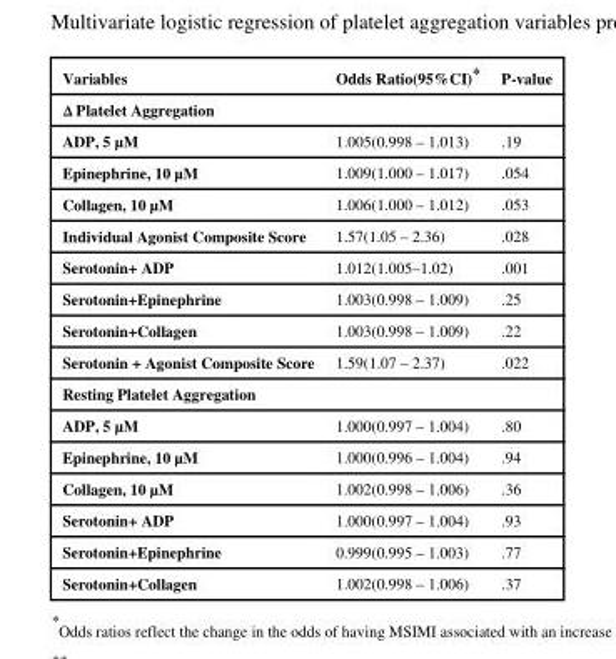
<table><thead><tr><td>Variables</td><td>Odds Ratio(95%CI)*</td><td>P-value</td></tr></thead><tbody><tr><td colspan="3">Δ Platelet Aggregation</td></tr><tr><td>ADP, 5 μM</td><td>1.005(0.998 – 1.013)</td><td>.19</td></tr><tr><td>Epinephrine, 10 μM</td><td>1.009(1.000 – 1.017)</td><td>.054</td></tr><tr><td>Collagen, 10 μM</td><td>1.006(1.000 – 1.012)</td><td>.053</td></tr><tr><td>Individual Agonist Composite Score</td><td>1.57(1.05 – 2.36)</td><td>.028</td></tr><tr><td>Serotonin+ ADP</td><td>1.012(1.005–1.02)</td><td>.001</td></tr><tr><td>Serotonin+Epinephrine</td><td>1.003(0.998 – 1.009)</td><td>.25</td></tr><tr><td>Serotonin+Collagen</td><td>1.003(0.998 – 1.009)</td><td>.22</td></tr><tr><td>Serotonin + Agonist Composite Score</td><td>1.59(1.07 – 2.37)</td><td>.022</td></tr><tr><td colspan="3">Resting Platelet Aggregation</td></tr><tr><td>ADP, 5 μM</td><td>1.000(0.997 – 1.004)</td><td>.80</td></tr><tr><td>Epinephrine, 10 μM</td><td>1.000(0.996 – 1.004)</td><td>.94</td></tr><tr><td>Collagen, 10 μM</td><td>1.002(0.998 – 1.006)</td><td>.36</td></tr><tr><td>Serotonin+ ADP</td><td>1.000(0.997 – 1.004)</td><td>.93</td></tr><tr><td>Serotonin+Epinephrine</td><td>0.999(0.995 – 1.003)</td><td>.77</td></tr><tr><td>Serotonin+Collagen</td><td>1.002(0.998 – 1.006)</td><td>.37</td></tr></tbody></table>